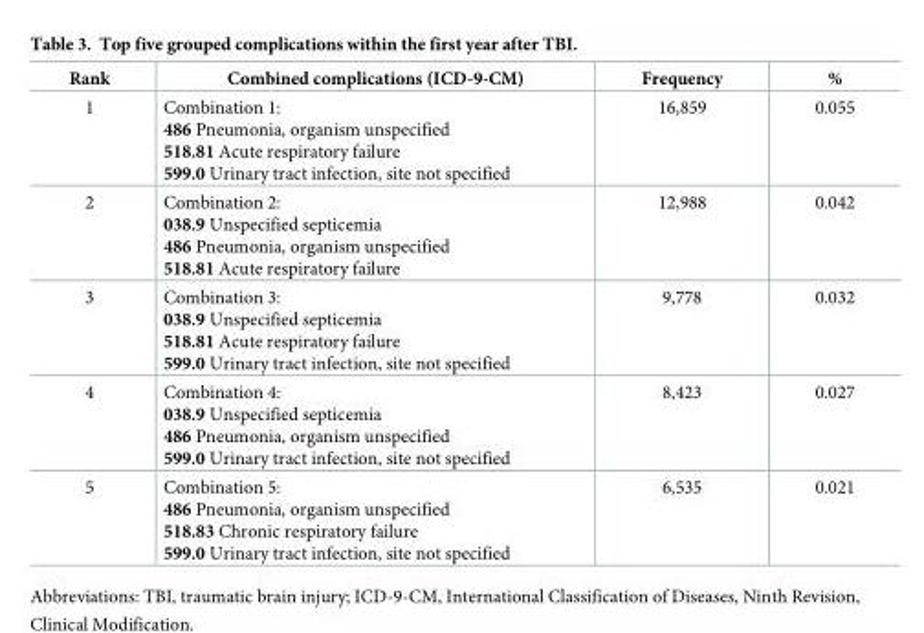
<table><thead><tr><td>Rank</td><td>Combined complications (ICD-9-CM)</td><td>Frequency</td><td>%</td></tr></thead><tbody><tr><td>1</td><td>Combination 1: 486 Pneumonia, organism unspecified 518.81 Acute respiratory failure 599.0 Urinary tract infection, site not specified</td><td>16,859</td><td>0.055</td></tr><tr><td>2</td><td>Combination 2: 038.9 Unspecified septicemia 486 Pneumonia, organism unspecified 518.81 Acute respiratory failure</td><td>12,988</td><td>0.042</td></tr><tr><td>3</td><td>Combination 3: 038.9 Unspecified septicemia 518.81 Acute respiratory failure 599.0 Urinary tract infection, site not specified</td><td>9,778</td><td>0.032</td></tr><tr><td>4</td><td>Combination 4: 038.9 Unspecified septicemia 486 Pneumonia, organism unspecified 599.0 Urinary tract infection, site not specified</td><td>8,423</td><td>0.027</td></tr><tr><td>5</td><td>Combination 5: 486 Pneumonia, organism unspecified 518.83 Chronic respiratory failure 599.0 Urinary tract infection, site not specified</td><td>6,535</td><td>0.021</td></tr></tbody></table>